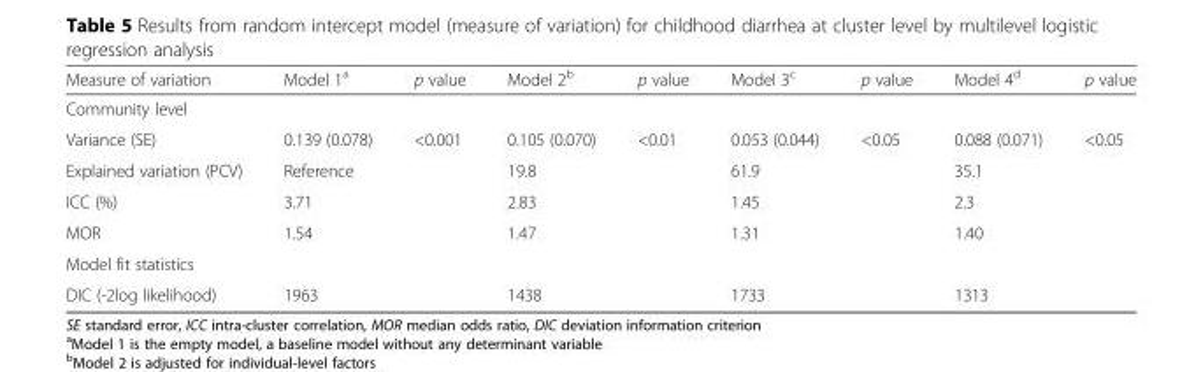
<table><thead><tr><td>Measure of variation</td><td>Model 1<sup>a</sup></td><td>p value</td><td>Model 2<sup>b</sup></td><td>p value</td><td>Model 3<sup>c</sup></td><td>p value</td><td>Model 4<sup>d</sup></td><td>p value</td></tr></thead><tbody><tr><td colspan="9">Community level</td></tr><tr><td>Variance (SE)</td><td>0.139 (0.078)</td><td>&lt;0.001</td><td>0.105 (0.070)</td><td>&lt;0.01</td><td>0.053 (0.044)</td><td>&lt;0.05</td><td>0.088 (0.071)</td><td>&lt;0.05</td></tr><tr><td>Explained variation (PCV)</td><td>Reference</td><td></td><td>19.8</td><td></td><td>61.9</td><td></td><td>35.1</td><td></td></tr><tr><td>ICC (%)</td><td>3.71</td><td></td><td>2.83</td><td></td><td>1.45</td><td></td><td>2.3</td><td></td></tr><tr><td>MOR</td><td>1.54</td><td></td><td>1.47</td><td></td><td>1.31</td><td></td><td>1.40</td><td></td></tr><tr><td colspan="9">Model fit statistics</td></tr><tr><td>DIC (-2log likelihood)</td><td>1963</td><td></td><td>1438</td><td></td><td>1733</td><td></td><td>1313</td><td></td></tr></tbody></table>